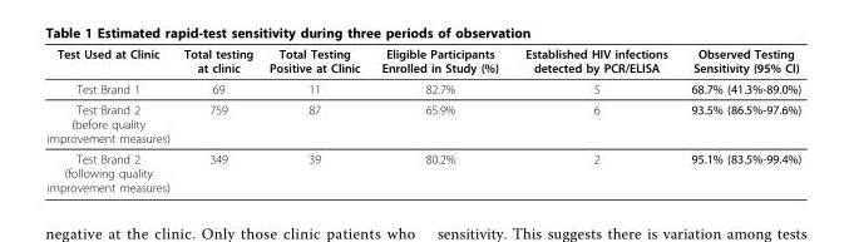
<table><thead><tr><td>Test Used at Clinic</td><td>Total testing at clinic</td><td>Total Testing Positive at Clinic</td><td>Eligible Participants Enrolled in Study (%)</td><td>Established HIV infections detected by PCR/ELISA</td><td>Observed Testing Sensitivity (95% CI)</td></tr></thead><tbody><tr><td>Test Brand 1</td><td>69</td><td>11</td><td>82.7%</td><td>5</td><td>68.7% (41.3%-89.0%)</td></tr><tr><td>Test Brand 2 (before quality improvement measures)</td><td>759</td><td>87</td><td>65.9%</td><td>6</td><td>93.5% (86.5%-97.6%)</td></tr><tr><td>Test Brand 2 (following quality improvement measures)</td><td>349</td><td>39</td><td>80.2%</td><td>2</td><td>95.1% (83.5%-99.4%)</td></tr></tbody></table>